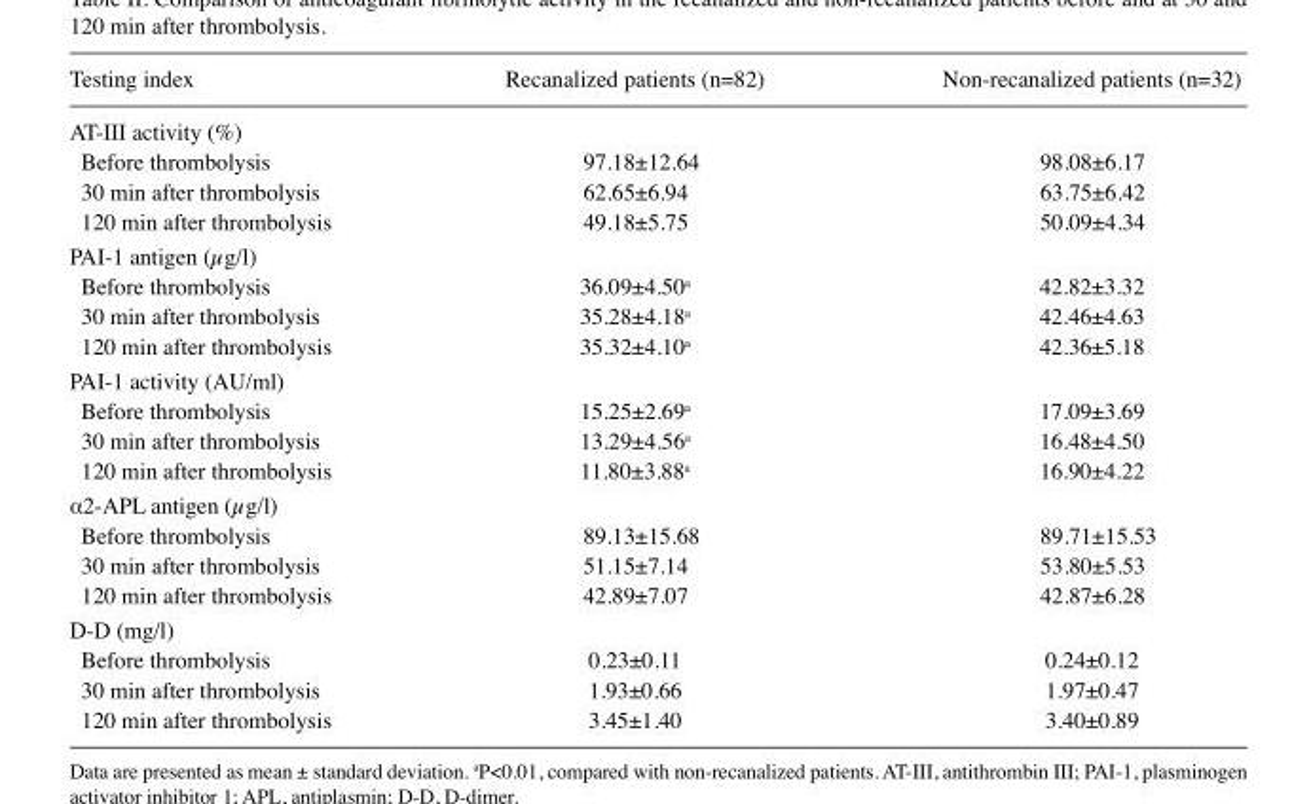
<table><thead><tr><td>Testing index</td><td>Recanalized patients (n=82)</td><td>Non-recanalized patients (n=32)</td></tr></thead><tbody><tr><td colspan="3">AT-III activity (%)</td></tr><tr><td>Before thrombolysis</td><td>97.18±12.64</td><td>98.08±6.17</td></tr><tr><td>30 min after thrombolysis</td><td>62.65±6.94</td><td>63.75±6.42</td></tr><tr><td>120 min after thrombolysis</td><td>49.18±5.75</td><td>50.09±4.34</td></tr><tr><td colspan="3">PAI-1 antigen (µg/l)</td></tr><tr><td>Before thrombolysis</td><td>36.09±4.50<sup>a</sup></td><td>42.82±3.32</td></tr><tr><td>30 min after thrombolysis</td><td>35.28±4.18<sup>a</sup></td><td>42.46±4.63</td></tr><tr><td>120 min after thrombolysis</td><td>35.32±4.10<sup>a</sup></td><td>42.36±5.18</td></tr><tr><td colspan="3">PAI-1 activity (AU/ml)</td></tr><tr><td>Before thrombolysis</td><td>15.25±2.69<sup>a</sup></td><td>17.09±3.69</td></tr><tr><td>30 min after thrombolysis</td><td>13.29±4.56<sup>a</sup></td><td>16.48±4.50</td></tr><tr><td>120 min after thrombolysis</td><td>11.80±3.88<sup>a</sup></td><td>16.90±4.22</td></tr><tr><td colspan="3">α2-APL antigen (µg/l)</td></tr><tr><td>Before thrombolysis</td><td>89.13±15.68</td><td>89.71±15.53</td></tr><tr><td>30 min after thrombolysis</td><td>51.15±7.14</td><td>53.80±5.53</td></tr><tr><td>120 min after thrombolysis</td><td>42.89±7.07</td><td>42.87±6.28</td></tr><tr><td colspan="3">D-D (mg/l)</td></tr><tr><td>Before thrombolysis</td><td>0.23±0.11</td><td>0.24±0.12</td></tr><tr><td>30 min after thrombolysis</td><td>1.93±0.66</td><td>1.97±0.47</td></tr><tr><td>120 min after thrombolysis</td><td>3.45±1.40</td><td>3.40±0.89</td></tr></tbody></table>